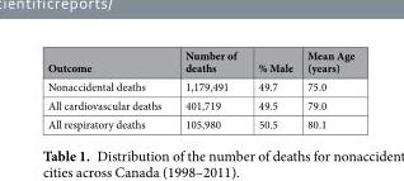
<table><thead><tr><td>Outcome</td><td>Number of deaths</td><td>% Male</td><td>Mean Age (years)</td></tr></thead><tbody><tr><td>Nonaccidental deaths</td><td>1,179,491</td><td>49.7</td><td>75.0</td></tr><tr><td>All cardiovascular deaths</td><td>401,719</td><td>49.5</td><td>79.0</td></tr><tr><td>All respiratory deaths</td><td>105,980</td><td>50.5</td><td>80.1</td></tr></tbody></table>